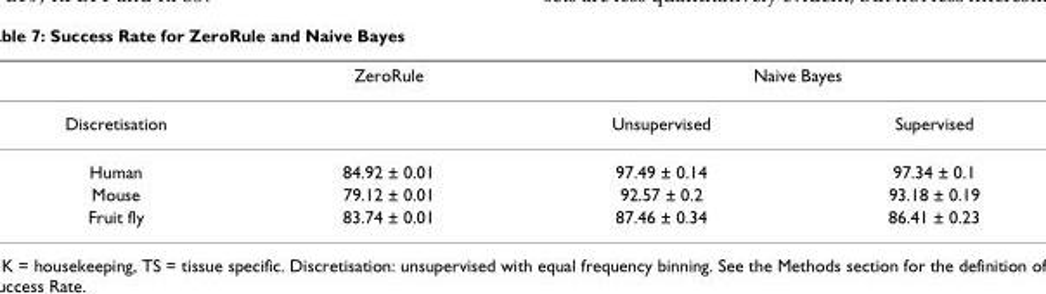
<table><thead><tr><td rowspan="2">Discretisation</td><td rowspan="2">ZeroRule</td><td colspan="2">Naive Bayes</td></tr><tr><td>Unsupervised</td><td>Supervised</td></tr></thead><tbody><tr><td>Human</td><td>84.92 ± 0.01</td><td>97.49 ± 0.14</td><td>97.34 ± 0.1</td></tr><tr><td>Mouse</td><td>79.12 ± 0.01</td><td>92.57 ± 0.2</td><td>93.18 ± 0.19</td></tr><tr><td>Fruit fly</td><td>83.74 ± 0.01</td><td>87.46 ± 0.34</td><td>86.41 ± 0.23</td></tr></tbody></table>